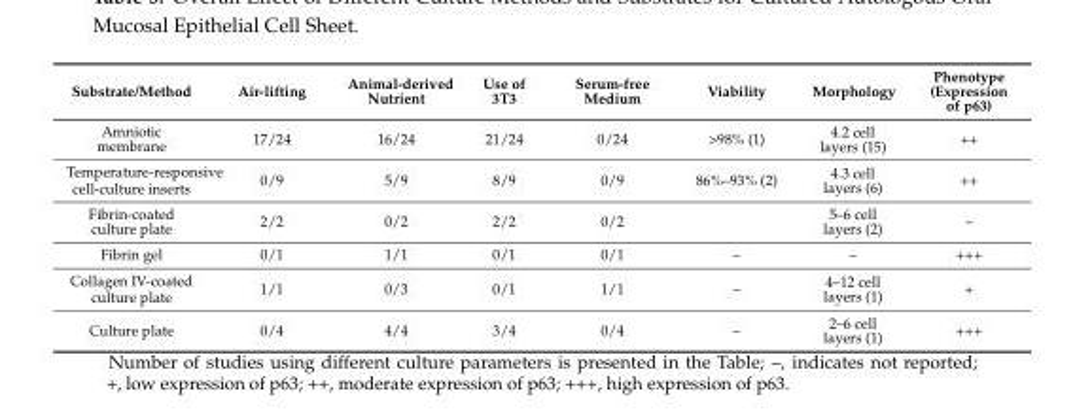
<table><thead><tr><td>Substrate/Method</td><td>Air-lifting</td><td>Animal-derived Nutrient</td><td>Use of 3T3</td><td>Serum-free Medium</td><td>Viability</td><td>Morphology</td><td>Phenotype (Expression of p63)</td></tr></thead><tbody><tr><td>Amniotic membrane</td><td>17/24</td><td>16/24</td><td>21/24</td><td>0/24</td><td>&gt;98% (1)</td><td>4.2 cell layers (15)</td><td>++</td></tr><tr><td>Temperature-responsive cell-culture inserts</td><td>0/9</td><td>5/9</td><td>8/9</td><td>0/9</td><td>86%–93% (2)</td><td>4.3 cell layers (6)</td><td>++</td></tr><tr><td>Fibrin-coated culture plate</td><td>2/2</td><td>0/2</td><td>2/2</td><td>0/2</td><td></td><td>5–6 cell layers (2)</td><td>–</td></tr><tr><td>Fibrin gel</td><td>0/1</td><td>1/1</td><td>0/1</td><td>0/1</td><td>–</td><td>–</td><td>+++</td></tr><tr><td>Collagen IV-coated culture plate</td><td>1/1</td><td>0/3</td><td>0/1</td><td>1/1</td><td>–</td><td>4–12 cell layers (1)</td><td>+</td></tr><tr><td>Culture plate</td><td>0/4</td><td>4/4</td><td>3/4</td><td>0/4</td><td>–</td><td>2–6 cell layers (1)</td><td>+++</td></tr></tbody></table>